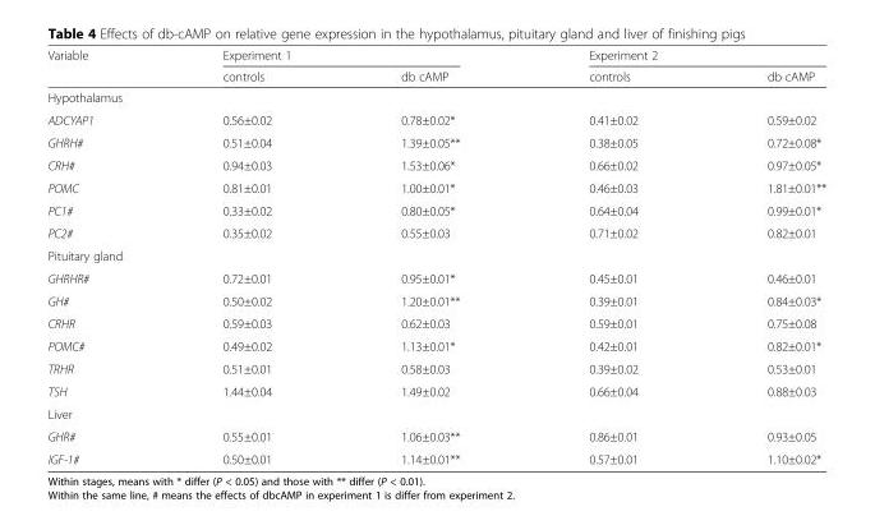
<table><thead><tr><td rowspan="2">Variable</td><td colspan="2">Experiment 1</td><td colspan="2">Experiment 2</td></tr><tr><td>controls</td><td>db cAMP</td><td>controls</td><td>db cAMP</td></tr></thead><tbody><tr><td colspan="5">Hypothalamus</td></tr><tr><td>ADCYAP1</td><td>0.56±0.02</td><td>0.78±0.02*</td><td>0.41±0.02</td><td>0.59±0.02</td></tr><tr><td>GHRH#</td><td>0.51±0.04</td><td>1.39±0.05**</td><td>0.38±0.05</td><td>0.72±0.08*</td></tr><tr><td>CRH#</td><td>0.94±0.03</td><td>1.53±0.06*</td><td>0.66±0.02</td><td>0.97±0.05*</td></tr><tr><td>POMC</td><td>0.81±0.01</td><td>1.00±0.01*</td><td>0.46±0.03</td><td>1.81±0.01**</td></tr><tr><td>PC1#</td><td>0.33±0.02</td><td>0.80±0.05*</td><td>0.64±0.04</td><td>0.99±0.01*</td></tr><tr><td>PC2#</td><td>0.35±0.02</td><td>0.55±0.03</td><td>0.71±0.02</td><td>0.82±0.01</td></tr><tr><td colspan="5">Pituitary gland</td></tr><tr><td>GHRHR#</td><td>0.72±0.01</td><td>0.95±0.01*</td><td>0.45±0.01</td><td>0.46±0.01</td></tr><tr><td>GH#</td><td>0.50±0.02</td><td>1.20±0.01**</td><td>0.39±0.01</td><td>0.84±0.03*</td></tr><tr><td>CRHR</td><td>0.59±0.03</td><td>0.62±0.03</td><td>0.59±0.01</td><td>0.75±0.08</td></tr><tr><td>POMC#</td><td>0.49±0.02</td><td>1.13±0.01*</td><td>0.42±0.01</td><td>0.82±0.01*</td></tr><tr><td>TRHR</td><td>0.51±0.01</td><td>0.58±0.03</td><td>0.39±0.02</td><td>0.53±0.01</td></tr><tr><td>TSH</td><td>1.44±0.04</td><td>1.49±0.02</td><td>0.66±0.04</td><td>0.88±0.03</td></tr><tr><td colspan="5">Liver</td></tr><tr><td>GHR#</td><td>0.55±0.01</td><td>1.06±0.03**</td><td>0.86±0.01</td><td>0.93±0.05</td></tr><tr><td>IGF-1#</td><td>0.50±0.01</td><td>1.14±0.01**</td><td>0.57±0.01</td><td>1.10±0.02*</td></tr></tbody></table>